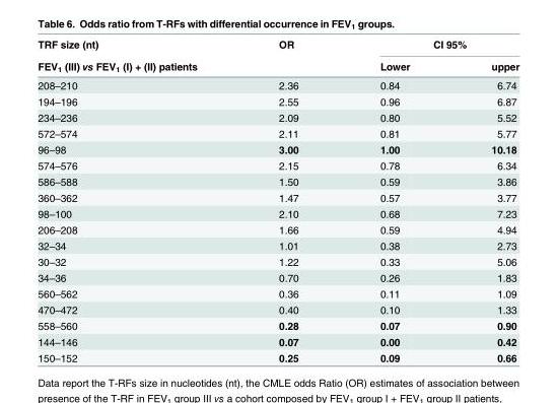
<table><thead><tr><td rowspan="2">TRF size (nt) FEV<sub>1</sub> (III) vs FEV<sub>1</sub> (I) + (II) patients</td><td rowspan="2">OR</td><td colspan="2">CI 95%</td></tr><tr><td>Lower</td><td>upper</td></tr></thead><tbody><tr><td>208–210</td><td>2.36</td><td>0.84</td><td>6.74</td></tr><tr><td>194–196</td><td>2.55</td><td>0.96</td><td>6.87</td></tr><tr><td>234–236</td><td>2.09</td><td>0.80</td><td>5.52</td></tr><tr><td>572–574</td><td>2.11</td><td>0.81</td><td>5.77</td></tr><tr><td>96–98</td><td>3.00</td><td>1.00</td><td>10.18</td></tr><tr><td>574–576</td><td>2.15</td><td>0.78</td><td>6.34</td></tr><tr><td>586–588</td><td>1.50</td><td>0.59</td><td>3.86</td></tr><tr><td>360–362</td><td>1.47</td><td>0.57</td><td>3.77</td></tr><tr><td>98–100</td><td>2.10</td><td>0.68</td><td>7.23</td></tr><tr><td>206–208</td><td>1.66</td><td>0.59</td><td>4.94</td></tr><tr><td>32–34</td><td>1.01</td><td>0.38</td><td>2.73</td></tr><tr><td>30–32</td><td>1.22</td><td>0.33</td><td>5.06</td></tr><tr><td>34–36</td><td>0.70</td><td>0.26</td><td>1.83</td></tr><tr><td>560–562</td><td>0.36</td><td>0.11</td><td>1.09</td></tr><tr><td>470–472</td><td>0.40</td><td>0.10</td><td>1.33</td></tr><tr><td>558–560</td><td>0.28</td><td>0.07</td><td>0.90</td></tr><tr><td>144–146</td><td>0.07</td><td>0.00</td><td>0.42</td></tr><tr><td>150–152</td><td>0.25</td><td>0.09</td><td>0.66</td></tr></tbody></table>